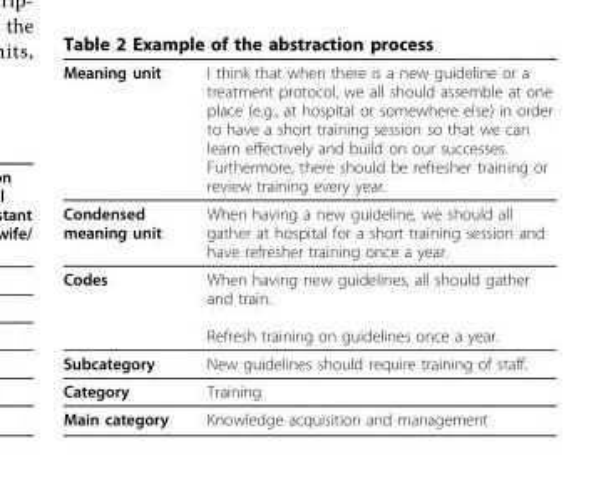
<table><thead><tr><td>Meaning unit</td><td>I think that when there is a new guideline or a treatment protocol, we all should assemble at one place (e.g., at hospital or somewhere else) in order to have a short training session so that we can learn effectively and build on our successes. Furthermore, there should be refresher training or review training every year.</td></tr></thead><tbody><tr><td>Condensed meaning unit</td><td>When having a new guideline, we should all gather at hospital for a short training session and have refresher training once a year.</td></tr><tr><td>Codes</td><td>When having new guidelines, all should gather and train. Refresh training on guidelines once a year.</td></tr><tr><td>Subcategory</td><td>New guidelines should require training of staff.</td></tr><tr><td>Category</td><td>Training</td></tr><tr><td>Main category</td><td>Knowledge acquisition and management</td></tr></tbody></table>